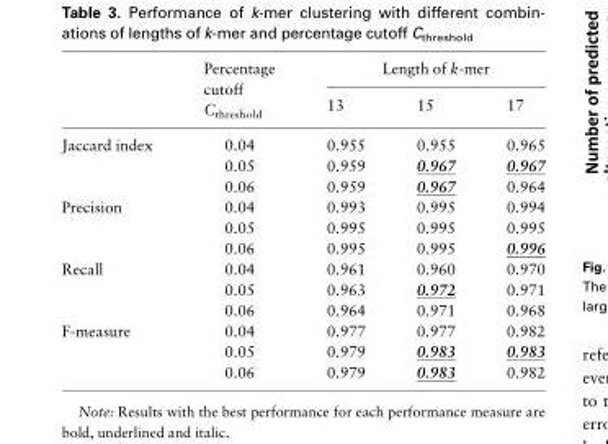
<table><thead><tr><td rowspan="2"></td><td rowspan="2">Percentage cutoff C<sub>threshold</sub></td><td colspan="3">Length of k-mer</td></tr><tr><td>13</td><td>15</td><td>17</td></tr></thead><tbody><tr><td rowspan="3">Jaccard index</td><td>0.04</td><td>0.955</td><td>0.955</td><td>0.965</td></tr><tr><td>0.05</td><td>0.959</td><td>0.967</td><td>0.967</td></tr><tr><td>0.06</td><td>0.959</td><td>0.967</td><td>0.964</td></tr><tr><td rowspan="3">Precision</td><td>0.04</td><td>0.993</td><td>0.995</td><td>0.994</td></tr><tr><td>0.05</td><td>0.995</td><td>0.995</td><td>0.995</td></tr><tr><td>0.06</td><td>0.995</td><td>0.995</td><td>0.996</td></tr><tr><td rowspan="3">Recall</td><td>0.04</td><td>0.961</td><td>0.960</td><td>0.970</td></tr><tr><td>0.05</td><td>0.963</td><td>0.972</td><td>0.971</td></tr><tr><td>0.06</td><td>0.964</td><td>0.971</td><td>0.968</td></tr><tr><td rowspan="3">F-measure</td><td>0.04</td><td>0.977</td><td>0.977</td><td>0.982</td></tr><tr><td>0.05</td><td>0.979</td><td>0.983</td><td>0.983</td></tr><tr><td>0.06</td><td>0.979</td><td>0.983</td><td>0.982</td></tr></tbody></table>